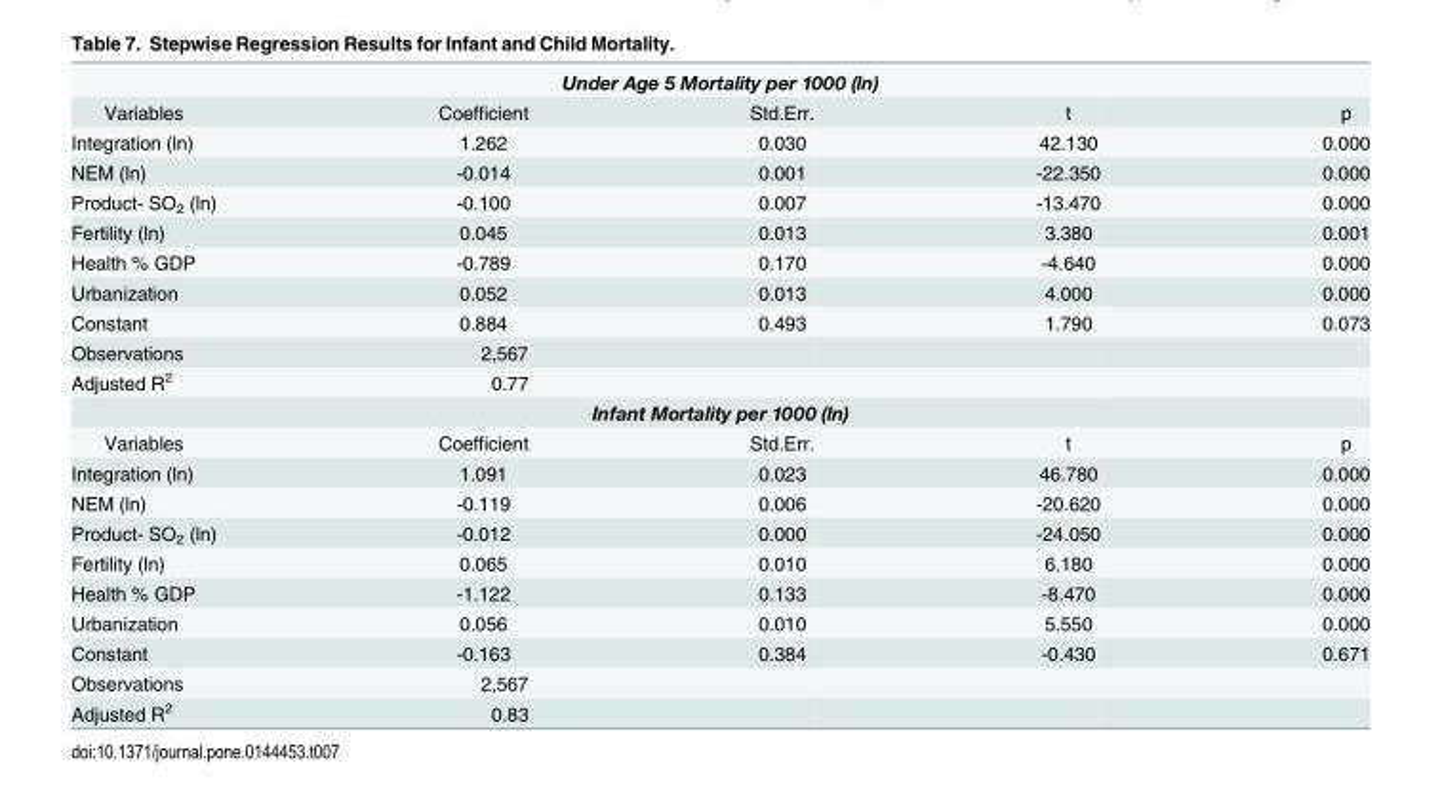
<table><tbody><tr><td colspan="5">Under Age 5 Mortality per 1000 (ln)</td></tr><tr><td>Variables</td><td>Coefficient</td><td>Std.Err.</td><td>t</td><td>p</td></tr><tr><td>Integration (ln)</td><td>1.262</td><td>0.030</td><td>42.130</td><td>0.000</td></tr><tr><td>NEM (ln)</td><td>-0.014</td><td>0.001</td><td>-22.350</td><td>0.000</td></tr><tr><td>Product- SO<sub>2</sub> (ln)</td><td>-0.100</td><td>0.007</td><td>-13.470</td><td>0.000</td></tr><tr><td>Fertility (ln)</td><td>0.045</td><td>0.013</td><td>3.380</td><td>0.001</td></tr><tr><td>Health % GDP</td><td>-0.789</td><td>0.170</td><td>-4.640</td><td>0.000</td></tr><tr><td>Urbanization</td><td>0.052</td><td>0.013</td><td>4.000</td><td>0.000</td></tr><tr><td>Constant</td><td>0.884</td><td>0.493</td><td>1.790</td><td>0.073</td></tr><tr><td>Observations</td><td>2,567</td><td></td><td></td><td></td></tr><tr><td>Adjusted R<sup>2</sup></td><td>0.77</td><td></td><td></td><td></td></tr><tr><td colspan="5">Infant Mortality per 1000 (ln)</td></tr><tr><td>Variables</td><td>Coefficient</td><td>Std.Err.</td><td>t</td><td>p</td></tr><tr><td>Integration (ln)</td><td>1.091</td><td>0.023</td><td>46.780</td><td>0.000</td></tr><tr><td>NEM (ln)</td><td>-0.119</td><td>0.006</td><td>-20.620</td><td>0.000</td></tr><tr><td>Product- SO<sub>2</sub> (ln)</td><td>-0.012</td><td>0.000</td><td>-24.050</td><td>0.000</td></tr><tr><td>Fertility (ln)</td><td>0.065</td><td>0.010</td><td>6.180</td><td>0.000</td></tr><tr><td>Health % GDP</td><td>-1.122</td><td>0.133</td><td>-8.470</td><td>0.000</td></tr><tr><td>Urbanization</td><td>0.056</td><td>0.010</td><td>5.550</td><td>0.000</td></tr><tr><td>Constant</td><td>-0.163</td><td>0.384</td><td>-0.430</td><td>0.671</td></tr><tr><td>Observations</td><td>2,567</td><td></td><td></td><td></td></tr><tr><td>Adjusted R<sup>2</sup></td><td>0.83</td><td></td><td></td><td></td></tr></tbody></table>